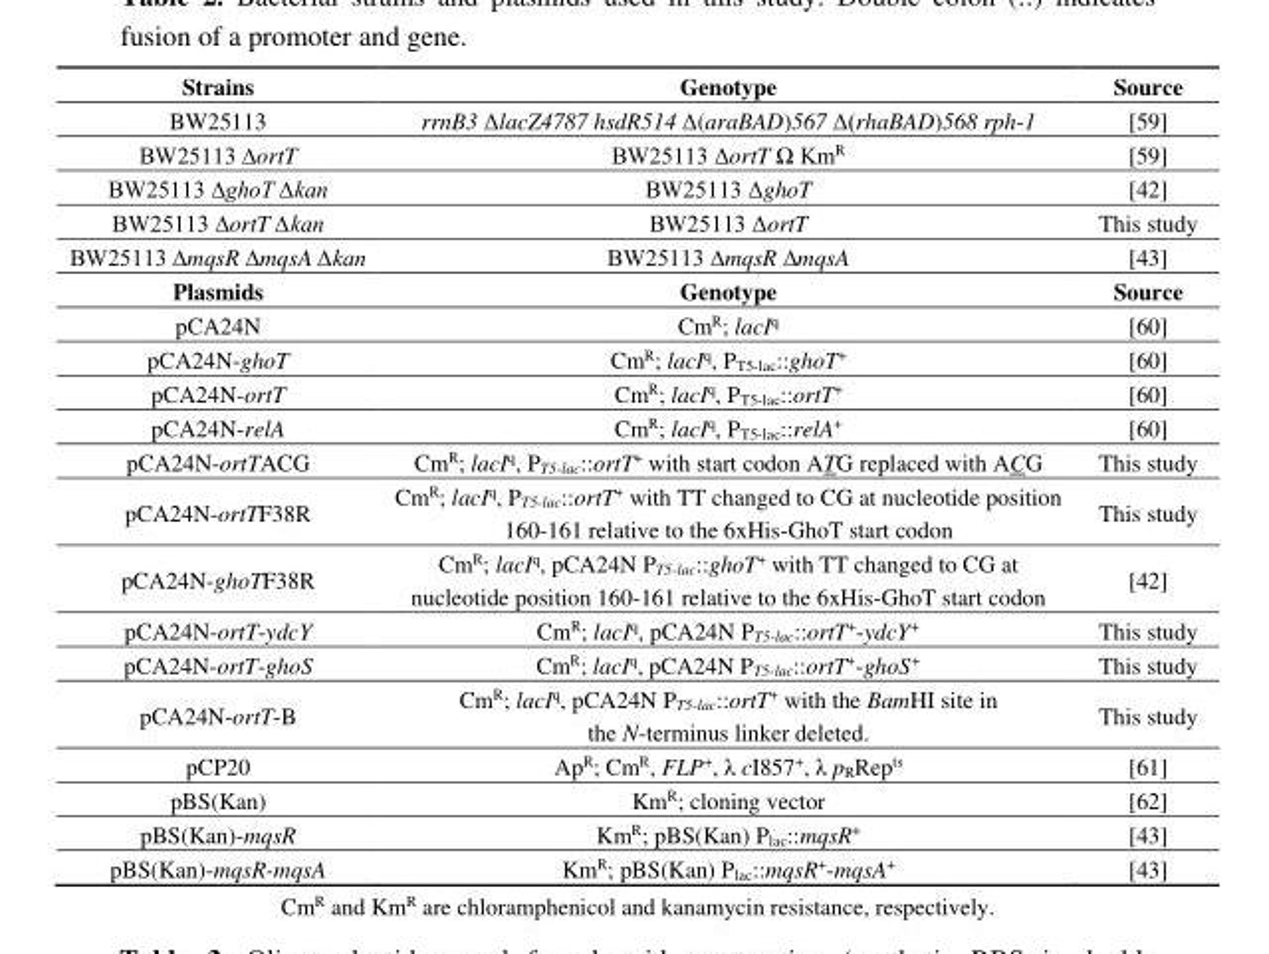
<table><thead><tr><td>Strains</td><td>Genotype</td><td>Source</td></tr></thead><tbody><tr><td>BW25113</td><td>rrnB3 ΔlacZ4787 hsdR514 Δ(araBAD)567 Δ(rhaBAD)568 rph-1</td><td>[59]</td></tr><tr><td>BW25113 ∆ortT</td><td>BW25113 ΔortT Ω Km<sup>R</sup></td><td>[59]</td></tr><tr><td>BW25113 ∆ghoT ∆kan</td><td>BW25113 ΔghoT</td><td>[42]</td></tr><tr><td>BW25113 ∆ortT ∆kan</td><td>BW25113 ΔortT</td><td>This study</td></tr><tr><td>BW25113 ∆mqsR ∆mqsA ∆kan</td><td>BW25113 ∆mqsR ∆mqsA</td><td>[43]</td></tr><tr><td>Plasmids</td><td>Genotype</td><td>Source</td></tr><tr><td>pCA24N</td><td>Cm<sup>R</sup>; lacI<sup>q</sup></td><td>[60]</td></tr><tr><td>pCA24N-ghoT</td><td>Cm<sup>R</sup>; lacI<sup>q</sup>, P<sub>T5-lac</sub>::ghoT<sup>+</sup></td><td>[60]</td></tr><tr><td>pCA24N-ortT</td><td>Cm<sup>R</sup>; lacI<sup>q</sup>, P<sub>T5-lac</sub>::ortT<sup>+</sup></td><td>[60]</td></tr><tr><td>pCA24N-relA</td><td>Cm<sup>R</sup>; lacI<sup>q</sup>, P<sub>T5-lac</sub>::relA<sup>+</sup></td><td>[60]</td></tr><tr><td>pCA24N-ortTACG</td><td>Cm<sup>R</sup>; lacI<sup>q</sup>, P<sub>T5-lac</sub>::ortT<sup>+</sup> with start codon ATG replaced with ACG</td><td>This study</td></tr><tr><td>pCA24N-ortTF38R</td><td>Cm<sup>R</sup>; lacI<sup>q</sup>, P<sub>T5-lac</sub>::ortT<sup>+</sup> with TT changed to CG at nucleotide position 160-161 relative to the 6xHis-GhoT start codon</td><td>This study</td></tr><tr><td>pCA24N-ghoTF38R</td><td>Cm<sup>R</sup>; lacI<sup>q</sup>, pCA24N P<sub>T5-lac</sub>::ghoT<sup>+</sup> with TT changed to CG at nucleotide position 160-161 relative to the 6xHis-GhoT start codon</td><td>[42]</td></tr><tr><td>pCA24N-ortT-ydcY</td><td>Cm<sup>R</sup>; lacI<sup>q</sup>, pCA24N P<sub>T5-lac</sub>::ortT<sup>+</sup>-ydcY<sup>+</sup></td><td>This study</td></tr><tr><td>pCA24N-ortT-ghoS</td><td>Cm<sup>R</sup>; lacI<sup>q</sup>, pCA24N P<sub>T5-lac</sub>::ortT<sup>+</sup>-ghoS<sup>+</sup></td><td>This study</td></tr><tr><td>pCA24N-ortT-B</td><td>Cm<sup>R</sup>; lacI<sup>q</sup>, pCA24N P<sub>T5-lac</sub>::ortT<sup>+</sup> with the BamHI site in the N-terminus linker deleted.</td><td>This study</td></tr><tr><td>pCP20</td><td>Ap<sup>R</sup>; Cm<sup>R</sup>, FLP<sup>+</sup>, λ cI857<sup>+</sup>, λ p<sub>R</sub>Rep<sup>ts</sup></td><td>[61]</td></tr><tr><td>pBS(Kan)</td><td>Km<sup>R</sup>; cloning vector</td><td>[62]</td></tr><tr><td>pBS(Kan)-mqsR</td><td>Km<sup>R</sup>; pBS(Kan) P<sub>lac</sub>::mqsR<sup>+</sup></td><td>[43]</td></tr><tr><td>pBS(Kan)-mqsR-mqsA</td><td>Km<sup>R</sup>; pBS(Kan) P<sub>lac</sub>::mqsR<sup>+</sup>-mqsA<sup>+</sup></td><td>[43]</td></tr></tbody></table>